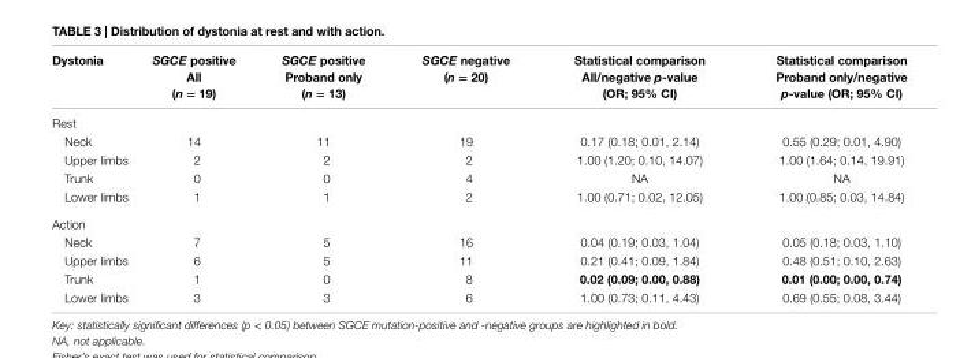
<table><thead><tr><td>Dystonia</td><td>SGCE positive all (n = 19)</td><td>SGCE positive Proband only (n = 13)</td><td>SGCE negative (n = 20)</td><td>statistical comparison all/negative p-value (Or; 95% ci)</td><td>statistical comparison Proband only/negative p-value (Or; 95% ci)</td></tr></thead><tbody><tr><td colspan="6">Rest</td></tr><tr><td>Neck</td><td>14</td><td>11</td><td>19</td><td>0.17 (0.18; 0.01, 2.14)</td><td>0.55 (0.29; 0.01, 4.90)</td></tr><tr><td>Upper limbs</td><td>2</td><td>2</td><td>2</td><td>1.00 (1.20; 0.10, 14.07)</td><td>1.00 (1.64; 0.14, 19.91)</td></tr><tr><td>Trunk</td><td>0</td><td>0</td><td>4</td><td>NA</td><td>NA</td></tr><tr><td>Lower limbs</td><td>1</td><td>1</td><td>2</td><td>1.00 (0.71; 0.02, 12.05)</td><td>1.00 (0.85; 0.03, 14.84)</td></tr><tr><td colspan="6">Action</td></tr><tr><td>Neck</td><td>7</td><td>5</td><td>16</td><td>0.04 (0.19; 0.03, 1.04)</td><td>0.05 (0.18; 0.03, 1.10)</td></tr><tr><td>Upper limbs</td><td>6</td><td>5</td><td>11</td><td>0.21 (0.41; 0.09, 1.84)</td><td>0.48 (0.51; 0.10, 2.63)</td></tr><tr><td>Trunk</td><td>1</td><td>0</td><td>8</td><td>0.02 (0.09; 0.00, 0.88)</td><td>0.01 (0.00; 0.00, 0.74)</td></tr><tr><td>Lower limbs</td><td>3</td><td>3</td><td>6</td><td>1.00 (0.73; 0.11, 4.43)</td><td>0.69 (0.55; 0.08, 3.44)</td></tr></tbody></table>